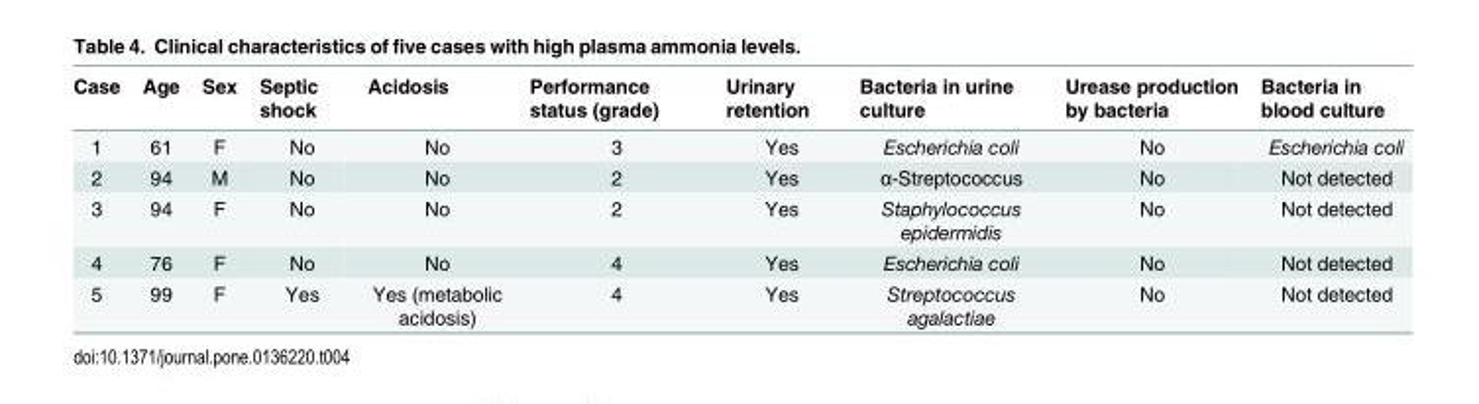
<table><thead><tr><td>Case</td><td>Age</td><td>Sex</td><td>Septic shock</td><td>Acidosis</td><td>Performance status (grade)</td><td>Urinary retention</td><td>Bacteria in urine culture</td><td>Urease production by bacteria</td><td>Bacteria in blood culture</td></tr></thead><tbody><tr><td>1</td><td>61</td><td>F</td><td>No</td><td>No</td><td>3</td><td>Yes</td><td>Escherichia coli</td><td>No</td><td>Escherichia coli</td></tr><tr><td>2</td><td>94</td><td>M</td><td>No</td><td>No</td><td>2</td><td>Yes</td><td>α-Streptococcus</td><td>No</td><td>Not detected</td></tr><tr><td>3</td><td>94</td><td>F</td><td>No</td><td>No</td><td>2</td><td>Yes</td><td>Staphylococcus epidermidis</td><td>No</td><td>Not detected</td></tr><tr><td>4</td><td>76</td><td>F</td><td>No</td><td>No</td><td>4</td><td>Yes</td><td>Escherichia coli</td><td>No</td><td>Not detected</td></tr><tr><td>5</td><td>99</td><td>F</td><td>Yes</td><td>Yes (metabolic acidosis)</td><td>4</td><td>Yes</td><td>Streptococcus agalactiae</td><td>No</td><td>Not detected</td></tr></tbody></table>